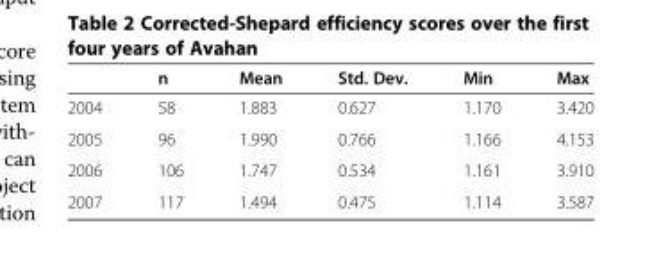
<table><thead><tr><td></td><td>n</td><td>Mean</td><td>Std. Dev.</td><td>Min</td><td>Max</td></tr></thead><tbody><tr><td>2004</td><td>58</td><td>1.883</td><td>0.627</td><td>1.170</td><td>3.420</td></tr><tr><td>2005</td><td>96</td><td>1.990</td><td>0.766</td><td>1.166</td><td>4.153</td></tr><tr><td>2006</td><td>106</td><td>1.747</td><td>0.534</td><td>1.161</td><td>3.910</td></tr><tr><td>2007</td><td>117</td><td>1.494</td><td>0.475</td><td>1.114</td><td>3.587</td></tr></tbody></table>